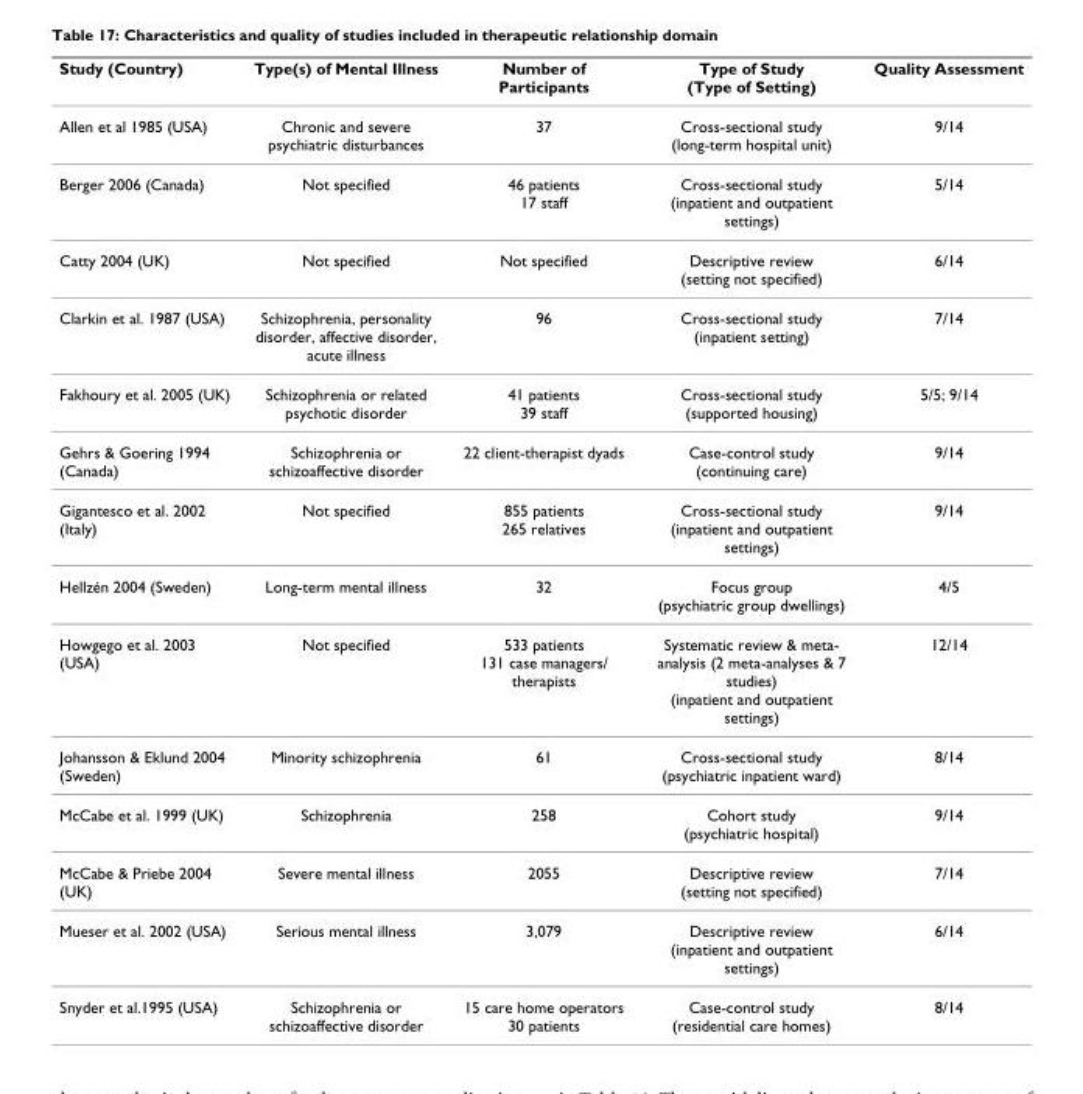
<table><thead><tr><td>Study (Country)</td><td>Type(s) of Mental Illness</td><td>Number of Participants</td><td>Type of Study (Type of Setting)</td><td>Quality Assessment</td></tr></thead><tbody><tr><td>Allen et al 1985 (USA)</td><td>Chronic and severe psychiatric disturbances</td><td>37</td><td>Cross-sectional study (long-term hospital unit)</td><td>9/14</td></tr><tr><td>Berger 2006 (Canada)</td><td>Not specified</td><td>46 patients 17 staff</td><td>Cross-sectional study (inpatient and outpatient settings)</td><td>5/14</td></tr><tr><td>Catty 2004 (UK)</td><td>Not specified</td><td>Not specified</td><td>Descriptive review (setting not specified)</td><td>6/14</td></tr><tr><td>Clarkin et al. 1987 (USA)</td><td>Schizophrenia, personality disorder, affective disorder, acute illness</td><td>96</td><td>Cross-sectional study (inpatient setting)</td><td>7/14</td></tr><tr><td>Fakhoury et al. 2005 (UK)</td><td>Schizophrenia or related psychotic disorder</td><td>41 patients 39 staff</td><td>Cross-sectional study (supported housing)</td><td>5/5; 9/14</td></tr><tr><td>Gehrs &amp; Goering 1994 (Canada)</td><td>Schizophrenia or schizoaffective disorder</td><td>22 client-therapist dyads</td><td>Case-control study (continuing care)</td><td>9/14</td></tr><tr><td>Gigantesco et al. 2002 (Italy)</td><td>Not specified</td><td>855 patients 265 relatives</td><td>Cross-sectional study (inpatient and outpatient settings)</td><td>9/14</td></tr><tr><td>Hellzén 2004 (Sweden)</td><td>Long-term mental illness</td><td>32</td><td>Focus group (psychiatric group dwellings)</td><td>4/5</td></tr><tr><td>Howgego et al. 2003 (USA)</td><td>Not specified</td><td>533 patients 131 case managers/ therapists</td><td>Systematic review &amp; meta- analysis (2 meta-analyses &amp; 7 studies) (inpatient and outpatient settings)</td><td>12/14</td></tr><tr><td>Johansson &amp; Eklund 2004 (Sweden)</td><td>Minority schizophrenia</td><td>61</td><td>Cross-sectional study (psychiatric inpatient ward)</td><td>8/14</td></tr><tr><td>McCabe et al. 1999 (UK)</td><td>Schizophrenia</td><td>258</td><td>Cohort study (psychiatric hospital)</td><td>9/14</td></tr><tr><td>McCabe &amp; Priebe 2004 (UK)</td><td>Severe mental illness</td><td>2055</td><td>Descriptive review (setting not specified)</td><td>7/14</td></tr><tr><td>Mueser et al. 2002 (USA)</td><td>Serious mental illness</td><td>3,079</td><td>Descriptive review (inpatient and outpatient settings)</td><td>6/14</td></tr><tr><td>Snyder et al.1995 (USA)</td><td>Schizophrenia or schizoaffective disorder</td><td>15 care home operators 30 patients</td><td>Case-control study (residential care homes)</td><td>8/14</td></tr></tbody></table>